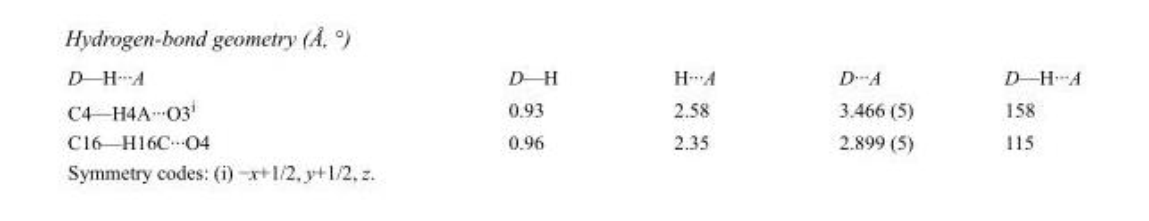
<table><tbody><tr><td>D—H···A</td><td>D—H</td><td>H···A</td><td>D···A</td><td>D—H···A</td></tr><tr><td>C4—H4A···O3<sup>i</sup></td><td>0.93</td><td>2.58</td><td>3.466 (5)</td><td>158</td></tr><tr><td>C16—H16C···O4</td><td>0.96</td><td>2.35</td><td>2.899 (5)</td><td>115</td></tr></tbody></table>